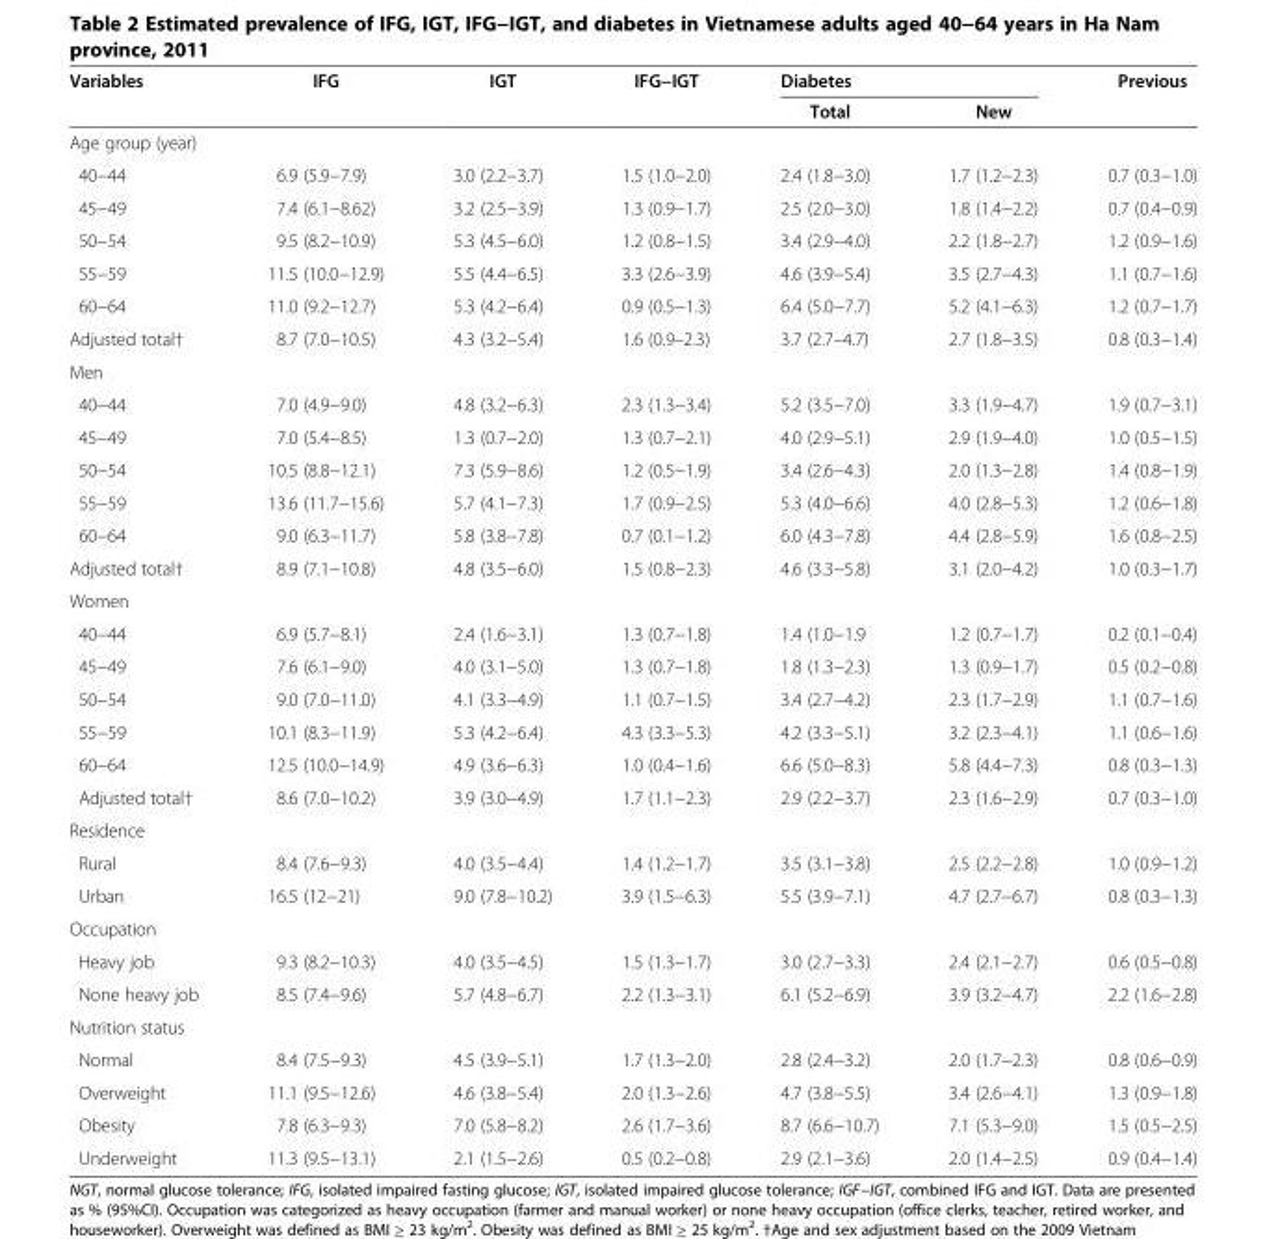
<table><thead><tr><td rowspan="2">Variables</td><td rowspan="2">IFG</td><td rowspan="2">IGT</td><td rowspan="2">IFG−IGT</td><td colspan="2">Diabetes</td><td rowspan="2">Previous</td></tr><tr><td>Total</td><td>New</td></tr></thead><tbody><tr><td colspan="7">Age group (year)</td></tr><tr><td>40−44</td><td>6.9 (5.9−7.9)</td><td>3.0 (2.2−3.7)</td><td>1.5 (1.0−2.0)</td><td>2.4 (1.8−3.0)</td><td>1.7 (1.2−2.3)</td><td>0.7 (0.3−1.0)</td></tr><tr><td>45−49</td><td>7.4 (6.1−8.62)</td><td>3.2 (2.5−3.9)</td><td>1.3 (0.9−1.7)</td><td>2.5 (2.0−3.0)</td><td>1.8 (1.4−2.2)</td><td>0.7 (0.4−0.9)</td></tr><tr><td>50−54</td><td>9.5 (8.2−10.9)</td><td>5.3 (4.5−6.0)</td><td>1.2 (0.8−1.5)</td><td>3.4 (2.9−4.0)</td><td>2.2 (1.8−2.7)</td><td>1.2 (0.9−1.6)</td></tr><tr><td>55−59</td><td>11.5 (10.0−12.9)</td><td>5.5 (4.4−6.5)</td><td>3.3 (2.6−3.9)</td><td>4.6 (3.9−5.4)</td><td>3.5 (2.7−4.3)</td><td>1.1 (0.7−1.6)</td></tr><tr><td>60−64</td><td>11.0 (9.2−12.7)</td><td>5.3 (4.2−6.4)</td><td>0.9 (0.5−1.3)</td><td>6.4 (5.0−7.7)</td><td>5.2 (4.1−6.3)</td><td>1.2 (0.7−1.7)</td></tr><tr><td>Adjusted total†</td><td>8.7 (7.0−10.5)</td><td>4.3 (3.2−5.4)</td><td>1.6 (0.9–2.3)</td><td>3.7 (2.7–4.7)</td><td>2.7 (1.8−3.5)</td><td>0.8 (0.3−1.4)</td></tr><tr><td colspan="7">Men</td></tr><tr><td>40−44</td><td>7.0 (4.9−9.0)</td><td>4.8 (3.2−6.3)</td><td>2.3 (1.3−3.4)</td><td>5.2 (3.5−7.0)</td><td>3.3 (1.9−4.7)</td><td>1.9 (0.7−3.1)</td></tr><tr><td>45−49</td><td>7.0 (5.4−8.5)</td><td>1.3 (0.7−2.0)</td><td>1.3 (0.7−2.1)</td><td>4.0 (2.9−5.1)</td><td>2.9 (1.9−4.0)</td><td>1.0 (0.5−1.5)</td></tr><tr><td>50−54</td><td>10.5 (8.8−12.1)</td><td>7.3 (5.9−8.6)</td><td>1.2 (0.5−1.9)</td><td>3.4 (2.6−4.3)</td><td>2.0 (1.3−2.8)</td><td>1.4 (0.8−1.9)</td></tr><tr><td>55−59</td><td>13.6 (11.7−15.6)</td><td>5.7 (4.1−7.3)</td><td>1.7 (0.9−2.5)</td><td>5.3 (4.0−6.6)</td><td>4.0 (2.8−5.3)</td><td>1.2 (0.6−1.8)</td></tr><tr><td>60−64</td><td>9.0 (6.3−11.7)</td><td>5.8 (3.8−7.8)</td><td>0.7 (0.1−1.2)</td><td>6.0 (4.3−7.8)</td><td>4.4 (2.8−5.9)</td><td>1.6 (0.8−2.5)</td></tr><tr><td>Adjusted total†</td><td>8.9 (7.1−10.8)</td><td>4.8 (3.5−6.0)</td><td>1.5 (0.8−2.3)</td><td>4.6 (3.3−5.8)</td><td>3.1 (2.0−4.2)</td><td>1.0 (0.3−1.7)</td></tr><tr><td colspan="7">Women</td></tr><tr><td>40−44</td><td>6.9 (5.7−8.1)</td><td>2.4 (1.6−3.1)</td><td>1.3 (0.7−1.8)</td><td>1.4 (1.0−1.9</td><td>1.2 (0.7−1.7)</td><td>0.2 (0.1−0.4)</td></tr><tr><td>45−49</td><td>7.6 (6.1−9.0)</td><td>4.0 (3.1−5.0)</td><td>1.3 (0.7−1.8)</td><td>1.8 (1.3−2.3)</td><td>1.3 (0.9−1.7)</td><td>0.5 (0.2−0.8)</td></tr><tr><td>50−54</td><td>9.0 (7.0−11.0)</td><td>4.1 (3.3−4.9)</td><td>1.1 (0.7−1.5)</td><td>3.4 (2.7−4.2)</td><td>2.3 (1.7−2.9)</td><td>1.1 (0.7−1.6)</td></tr><tr><td>55−59</td><td>10.1 (8.3−11.9)</td><td>5.3 (4.2−6.4)</td><td>4.3 (3.3−5.3)</td><td>4.2 (3.3−5.1)</td><td>3.2 (2.3−4.1)</td><td>1.1 (0.6−1.6)</td></tr><tr><td>60−64</td><td>12.5 (10.0−14.9)</td><td>4.9 (3.6−6.3)</td><td>1.0 (0.4−1.6)</td><td>6.6 (5.0−8.3)</td><td>5.8 (4.4−7.3)</td><td>0.8 (0.3−1.3)</td></tr><tr><td>Adjusted total†</td><td>8.6 (7.0−10.2)</td><td>3.9 (3.0−4.9)</td><td>1.7 (1.1−2.3)</td><td>2.9 (2.2−3.7)</td><td>2.3 (1.6−2.9)</td><td>0.7 (0.3−1.0)</td></tr><tr><td colspan="7">Residence</td></tr><tr><td>Rural</td><td>8.4 (7.6−9.3)</td><td>4.0 (3.5−4.4)</td><td>1.4 (1.2−1.7)</td><td>3.5 (3.1−3.8)</td><td>2.5 (2.2−2.8)</td><td>1.0 (0.9−1.2)</td></tr><tr><td>Urban</td><td>16.5 (12−21)</td><td>9.0 (7.8−10.2)</td><td>3.9 (1.5−6.3)</td><td>5.5 (3.9−7.1)</td><td>4.7 (2.7−6.7)</td><td>0.8 (0.3−1.3)</td></tr><tr><td colspan="7">Occupation</td></tr><tr><td>Heavy job</td><td>9.3 (8.2−10.3)</td><td>4.0 (3.5−4.5)</td><td>1.5 (1.3−1.7)</td><td>3.0 (2.7−3.3)</td><td>2.4 (2.1−2.7)</td><td>0.6 (0.5−0.8)</td></tr><tr><td>None heavy job</td><td>8.5 (7.4−9.6)</td><td>5.7 (4.8−6.7)</td><td>2.2 (1.3−3.1)</td><td>6.1 (5.2−6.9)</td><td>3.9 (3.2−4.7)</td><td>2.2 (1.6−2.8)</td></tr><tr><td colspan="7">Nutrition status</td></tr><tr><td>Normal</td><td>8.4 (7.5−9.3)</td><td>4.5 (3.9−5.1)</td><td>1.7 (1.3−2.0)</td><td>2.8 (2.4−3.2)</td><td>2.0 (1.7−2.3)</td><td>0.8 (0.6−0.9)</td></tr><tr><td>Overweight</td><td>11.1 (9.5−12.6)</td><td>4.6 (3.8−5.4)</td><td>2.0 (1.3−2.6)</td><td>4.7 (3.8−5.5)</td><td>3.4 (2.6−4.1)</td><td>1.3 (0.9−1.8)</td></tr><tr><td>Obesity</td><td>7.8 (6.3−9.3)</td><td>7.0 (5.8−8.2)</td><td>2.6 (1.7−3.6)</td><td>8.7 (6.6−10.7)</td><td>7.1 (5.3−9.0)</td><td>1.5 (0.5−2.5)</td></tr><tr><td>Underweight</td><td>11.3 (9.5−13.1)</td><td>2.1 (1.5−2.6)</td><td>0.5 (0.2−0.8)</td><td>2.9 (2.1−3.6)</td><td>2.0 (1.4−2.5)</td><td>0.9 (0.4−1.4)</td></tr></tbody></table>